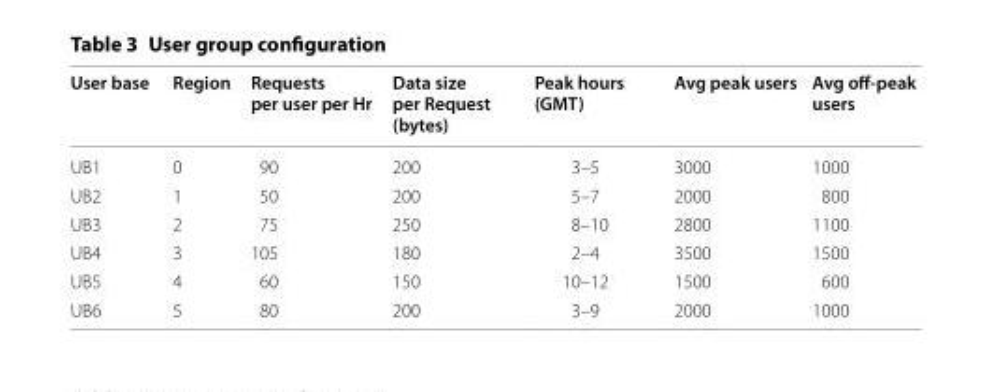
<table><thead><tr><td>User base</td><td>Region</td><td>Requests per user per Hr</td><td>Data size per Request (bytes)</td><td>Peak hours (GMT)</td><td>Avg peak users</td><td>Avg off‑peak users</td></tr></thead><tbody><tr><td>UB1</td><td>0</td><td>90</td><td>200</td><td>3–5</td><td>3000</td><td>1000</td></tr><tr><td>UB2</td><td>1</td><td>50</td><td>200</td><td>5–7</td><td>2000</td><td>800</td></tr><tr><td>UB3</td><td>2</td><td>75</td><td>250</td><td>8–10</td><td>2800</td><td>1100</td></tr><tr><td>UB4</td><td>3</td><td>105</td><td>180</td><td>2–4</td><td>3500</td><td>1500</td></tr><tr><td>UB5</td><td>4</td><td>60</td><td>150</td><td>10–12</td><td>1500</td><td>600</td></tr><tr><td>UB6</td><td>5</td><td>80</td><td>200</td><td>3–9</td><td>2000</td><td>1000</td></tr></tbody></table>